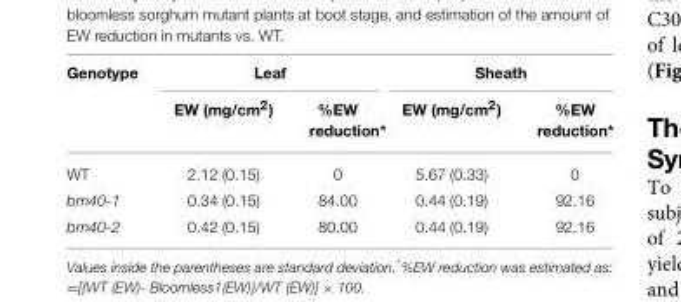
<table><thead><tr><td rowspan="2">Genotype</td><td colspan="2">Leaf</td><td colspan="2">Sheath</td></tr><tr><td>EW (mg/cm<sup>2</sup>)</td><td>%EW reduction*</td><td>EW (mg/cm<sup>2</sup>)</td><td>%EW reduction*</td></tr></thead><tbody><tr><td>WT</td><td>2.12 (0.15)</td><td>0</td><td>5.67 (0.33)</td><td>0</td></tr><tr><td>bm40-1</td><td>0.34 (0.15)</td><td>84.00</td><td>0.44 (0.19)</td><td>92.16</td></tr><tr><td>bm40-2</td><td>0.42 (0.15)</td><td>80.00</td><td>0.44 (0.19)</td><td>92.16</td></tr></tbody></table>